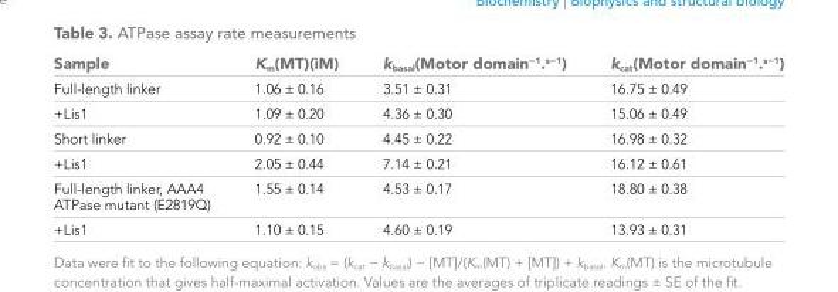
<table><thead><tr><td>Sample</td><td>K<sub>m</sub>(MT)(ìM)</td><td>k<sub>basal</sub>(Motor domain<sup>−1</sup>.<sup>s−1</sup>)</td><td>k<sub>cat</sub>(Motor domain<sup>−1</sup>.<sup>s−1</sup>)</td></tr></thead><tbody><tr><td>Full-length linker</td><td>1.06 ± 0.16</td><td>3.51 ± 0.31</td><td>16.75 ± 0.49</td></tr><tr><td>+Lis1</td><td>1.09 ± 0.20</td><td>4.36 ± 0.30</td><td>15.06 ± 0.49</td></tr><tr><td>Short linker</td><td>0.92 ± 0.10</td><td>4.45 ± 0.22</td><td>16.98 ± 0.32</td></tr><tr><td>+Lis1</td><td>2.05 ± 0.44</td><td>7.14 ± 0.21</td><td>16.12 ± 0.61</td></tr><tr><td>Full-length linker, AAA4 ATPase mutant (E2819Q)</td><td>1.55 ± 0.14</td><td>4.53 ± 0.17</td><td>18.80 ± 0.38</td></tr><tr><td>+Lis1</td><td>1.10 ± 0.15</td><td>4.60 ± 0.19</td><td>13.93 ± 0.31</td></tr></tbody></table>